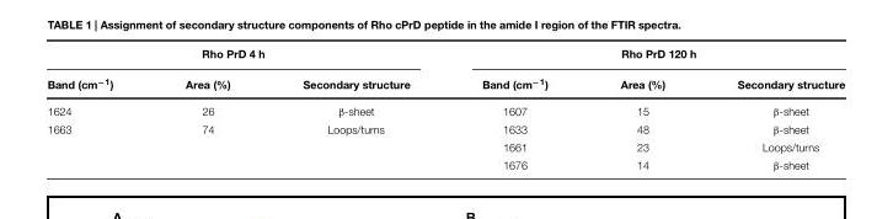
<table><thead><tr><td colspan="3">Rho PrD 4 h</td><td colspan="3">Rho PrD 120 h</td></tr><tr><td>Band (cm<sup>−1</sup>)</td><td>Area (%)</td><td>Secondary structure</td><td>Band (cm<sup>−1</sup>)</td><td>Area (%)</td><td>Secondary structure</td></tr></thead><tbody><tr><td>1624</td><td>26</td><td>β-sheet</td><td>1607</td><td>15</td><td>β-sheet</td></tr><tr><td rowspan="3">1663</td><td>74</td><td>Loops/turns</td><td>1633</td><td>48</td><td>β-sheet</td></tr><tr><td></td><td></td><td>1661</td><td>23</td><td>Loops/turns</td></tr><tr><td></td><td></td><td>1676</td><td>14</td><td>β-sheet</td></tr></tbody></table>